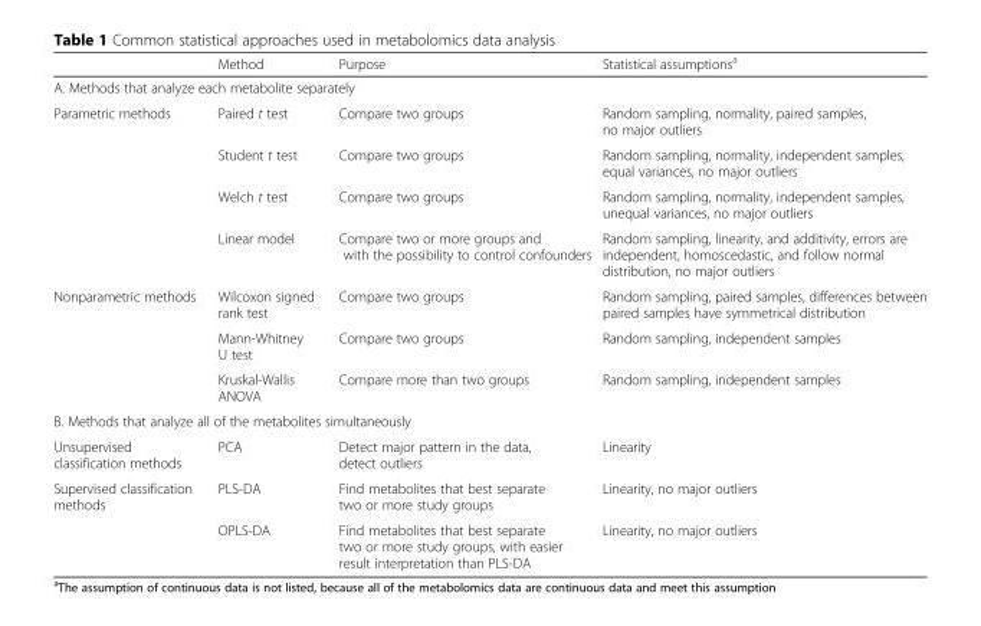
<table><thead><tr><td></td><td>Method</td><td>Purpose</td><td>Statistical assumptions<sup>a</sup></td></tr></thead><tbody><tr><td colspan="4">A. Methods that analyze each metabolite separately</td></tr><tr><td rowspan="4">Parametric methods</td><td>Paired t test</td><td>Compare two groups</td><td>Random sampling, normality, paired samples, no major outliers</td></tr><tr><td>Student t test</td><td>Compare two groups</td><td>Random sampling, normality, independent samples, equal variances, no major outliers</td></tr><tr><td>Welch t test</td><td>Compare two groups</td><td>Random sampling, normality, independent samples, unequal variances, no major outliers</td></tr><tr><td>Linear model</td><td>Compare two or more groups and with the possibility to control confounders</td><td>Random sampling, linearity, and additivity, errors are independent, homoscedastic, and follow normal distribution, no major outliers</td></tr><tr><td rowspan="3">Nonparametric methods</td><td>Wilcoxon signed rank test</td><td>Compare two groups</td><td>Random sampling, paired samples, differences between paired samples have symmetrical distribution</td></tr><tr><td>Mann-Whitney U test</td><td>Compare two groups</td><td>Random sampling, independent samples</td></tr><tr><td>Kruskal-Wallis ANOVA</td><td>Compare more than two groups</td><td>Random sampling, independent samples</td></tr><tr><td colspan="4">B. Methods that analyze all of the metabolites simultaneously</td></tr><tr><td>Unsupervised classification methods</td><td>PCA</td><td>Detect major pattern in the data, detect outliers</td><td>Linearity</td></tr><tr><td rowspan="2">Supervised classification methods</td><td>PLS-DA</td><td>Find metabolites that best separate two or more study groups</td><td>Linearity, no major outliers</td></tr><tr><td>OPLS-DA</td><td>Find metabolites that best separate two or more study groups, with easier result interpretation than PLS-DA</td><td>Linearity, no major outliers</td></tr></tbody></table>